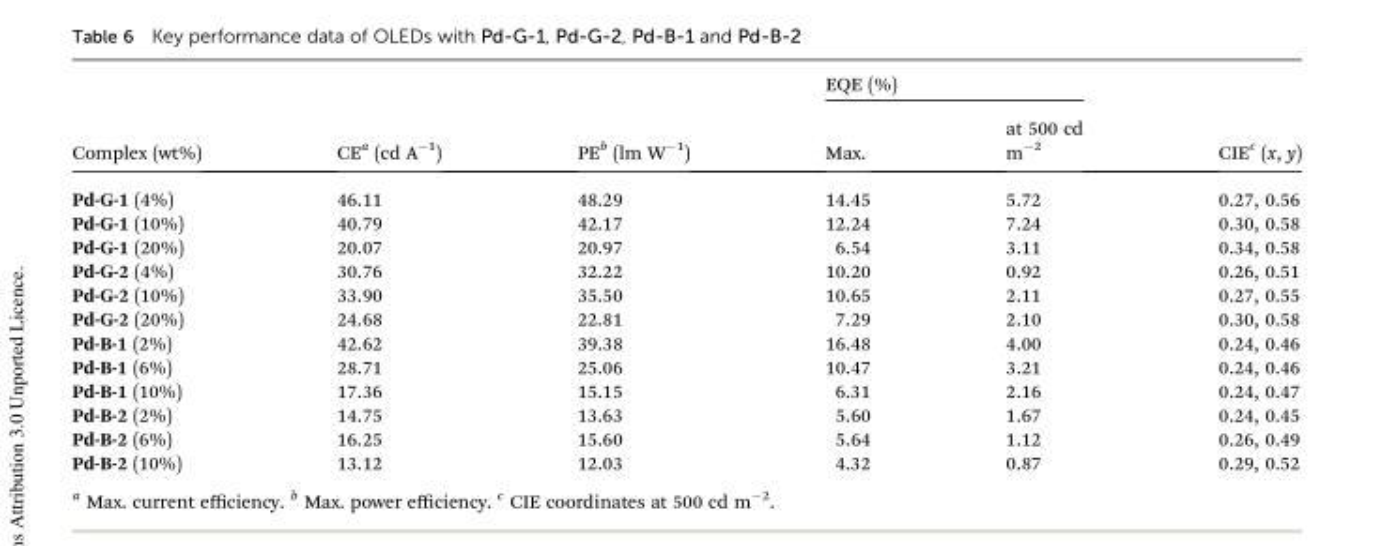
<table><thead><tr><td rowspan="2">Complex (wt%)</td><td rowspan="2">CE<sup>a</sup> (cd A<sup>–1</sup>)</td><td rowspan="2">PE<sup>b</sup> (lm W<sup>–1</sup>)</td><td colspan="2">EQE (%)</td><td rowspan="2">CIE<sup>c</sup> (x, y)</td></tr><tr><td>Max.</td><td>at 500 cd m<sup>–2</sup></td></tr></thead><tbody><tr><td>Pd-G-1 (4%)</td><td>46.11</td><td>48.29</td><td>14.45</td><td>5.72</td><td>0.27, 0.56</td></tr><tr><td>Pd-G-1 (10%)</td><td>40.79</td><td>42.17</td><td>12.24</td><td>7.24</td><td>0.30, 0.58</td></tr><tr><td>Pd-G-1 (20%)</td><td>20.07</td><td>20.97</td><td>6.54</td><td>3.11</td><td>0.34, 0.58</td></tr><tr><td>Pd-G-2 (4%)</td><td>30.76</td><td>32.22</td><td>10.20</td><td>0.92</td><td>0.26, 0.51</td></tr><tr><td>Pd-G-2 (10%)</td><td>33.90</td><td>35.50</td><td>10.65</td><td>2.11</td><td>0.27, 0.55</td></tr><tr><td>Pd-G-2 (20%)</td><td>24.68</td><td>22.81</td><td>7.29</td><td>2.10</td><td>0.30, 0.58</td></tr><tr><td>Pd-B-1 (2%)</td><td>42.62</td><td>39.38</td><td>16.48</td><td>4.00</td><td>0.24, 0.46</td></tr><tr><td>Pd-B-1 (6%)</td><td>28.71</td><td>25.06</td><td>10.47</td><td>3.21</td><td>0.24, 0.46</td></tr><tr><td>Pd-B-1 (10%)</td><td>17.36</td><td>15.15</td><td>6.31</td><td>2.16</td><td>0.24, 0.47</td></tr><tr><td>Pd-B-2 (2%)</td><td>14.75</td><td>13.63</td><td>5.60</td><td>1.67</td><td>0.24, 0.45</td></tr><tr><td>Pd-B-2 (6%)</td><td>16.25</td><td>15.60</td><td>5.64</td><td>1.12</td><td>0.26, 0.49</td></tr><tr><td>Pd-B-2 (10%)</td><td>13.12</td><td>12.03</td><td>4.32</td><td>0.87</td><td>0.29, 0.52</td></tr></tbody></table>